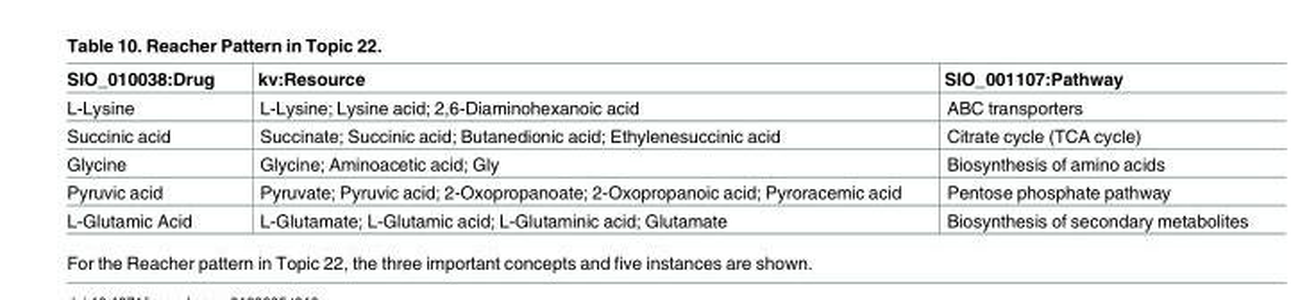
<table><thead><tr><td>SIO_010038:Drug</td><td>kv:Resource</td><td>SIO_001107:Pathway</td></tr></thead><tbody><tr><td>L-Lysine</td><td>L-Lysine; Lysine acid; 2,6-Diaminohexanoic acid</td><td>ABC transporters</td></tr><tr><td>Succinic acid</td><td>Succinate; Succinic acid; Butanedionic acid; Ethylenesuccinic acid</td><td>Citrate cycle (TCA cycle)</td></tr><tr><td>Glycine</td><td>Glycine; Aminoacetic acid; Gly</td><td>Biosynthesis of amino acids</td></tr><tr><td>Pyruvic acid</td><td>Pyruvate; Pyruvic acid; 2-Oxopropanoate; 2-Oxopropanoic acid; Pyroracemic acid</td><td>Pentose phosphate pathway</td></tr><tr><td>L-Glutamic Acid</td><td>L-Glutamate; L-Glutamic acid; L-Glutaminic acid; Glutamate</td><td>Biosynthesis of secondary metabolites</td></tr></tbody></table>